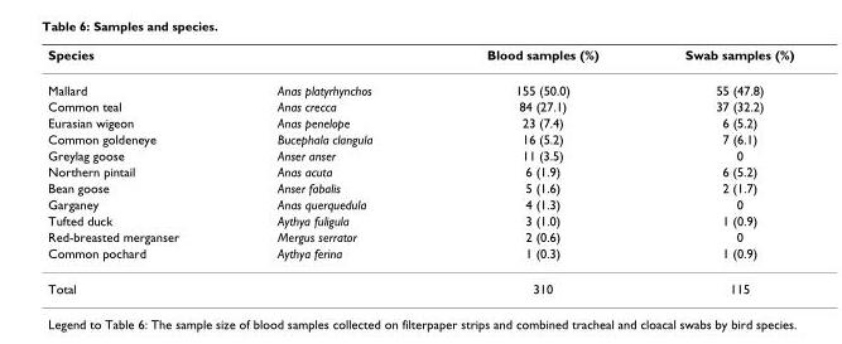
<table><thead><tr><td>Species</td><td></td><td>Blood samples (%)</td><td>Swab samples (%)</td></tr></thead><tbody><tr><td>Mallard</td><td>Anas platyrhynchos</td><td>155 (50.0)</td><td>55 (47.8)</td></tr><tr><td>Common teal</td><td>Anas crecca</td><td>84 (27.1)</td><td>37 (32.2)</td></tr><tr><td>Eurasian wigeon</td><td>Anas penelope</td><td>23 (7.4)</td><td>6 (5.2)</td></tr><tr><td>Common goldeneye</td><td>Bucephala clangula</td><td>16 (5.2)</td><td>7 (6.1)</td></tr><tr><td>Greylag goose</td><td>Anser anser</td><td>11 (3.5)</td><td>0</td></tr><tr><td>Northern pintail</td><td>Anas acuta</td><td>6 (1.9)</td><td>6 (5.2)</td></tr><tr><td>Bean goose</td><td>Anser fabalis</td><td>5 (1.6)</td><td>2 (1.7)</td></tr><tr><td>Garganey</td><td>Anas querquedula</td><td>4 (1.3)</td><td>0</td></tr><tr><td>Tufted duck</td><td>Aythya fuligula</td><td>3 (1.0)</td><td>1 (0.9)</td></tr><tr><td>Red-breasted merganser</td><td>Mergus serrator</td><td>2 (0.6)</td><td>0</td></tr><tr><td>Common pochard</td><td>Aythya ferina</td><td>1 (0.3)</td><td>1 (0.9)</td></tr><tr><td>Total</td><td></td><td>310</td><td>115</td></tr></tbody></table>